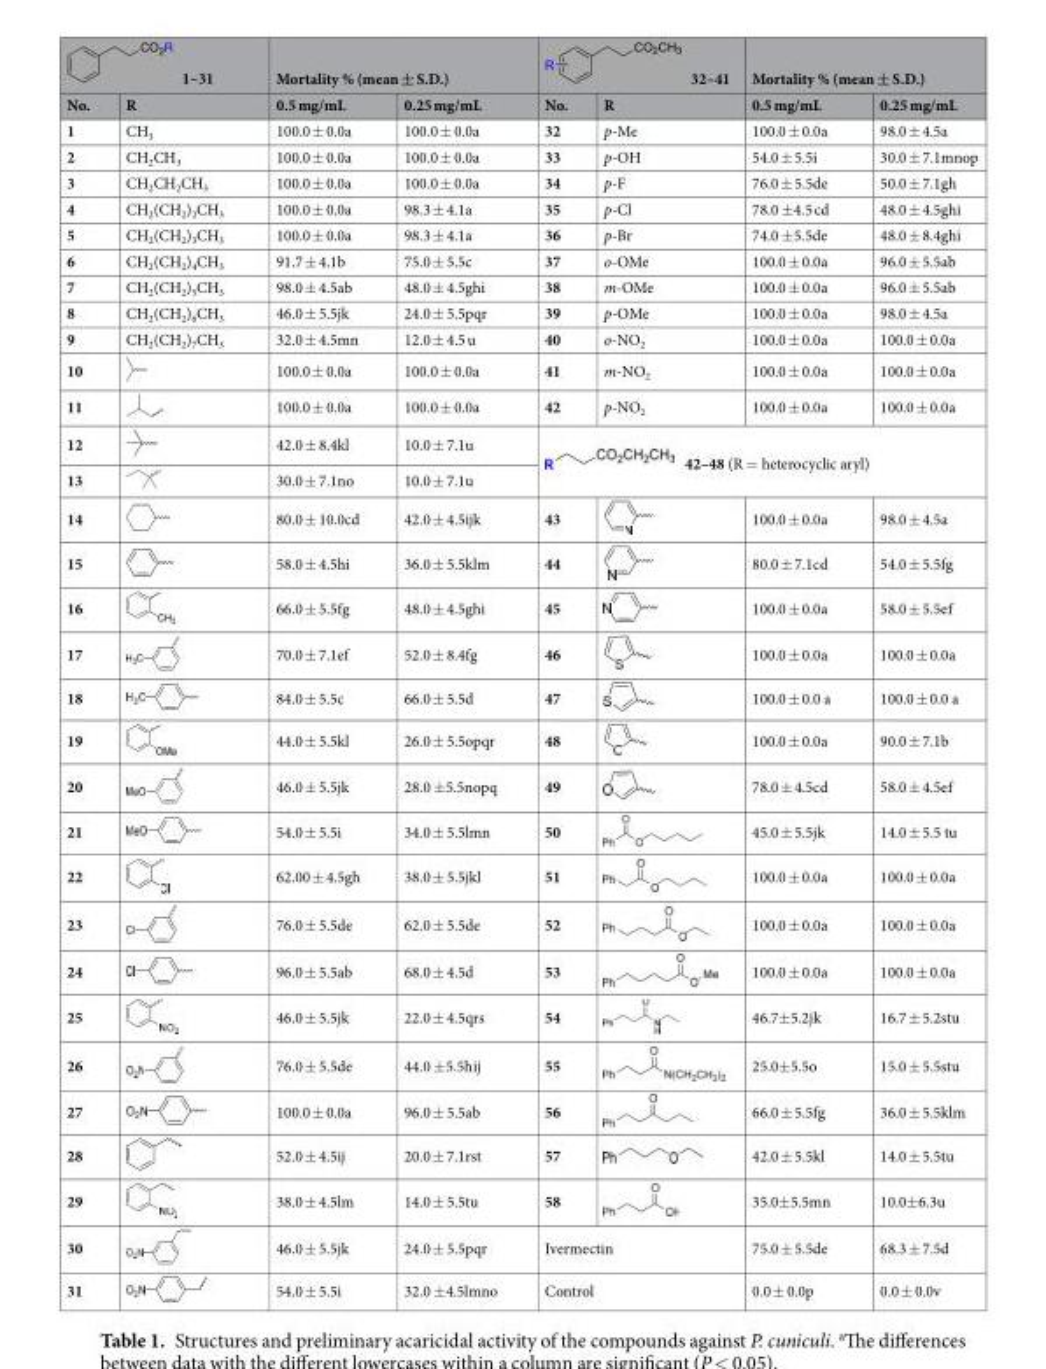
<table><thead><tr><td colspan="2">1–31</td><td colspan="2">Mortality % (mean ± S.D.)</td><td colspan="2">32–41</td><td colspan="2">Mortality % (mean ± S.D.)</td></tr><tr><td>No.</td><td>R</td><td>0.5 mg/mL</td><td>0.25 mg/mL</td><td>No.</td><td>R</td><td>0.5 mg/mL</td><td>0.25 mg/mL</td></tr></thead><tbody><tr><td>1</td><td>CH<sub>3</sub></td><td>100.0 ± 0.0a</td><td>100.0 ± 0.0a</td><td>32</td><td>p-Me</td><td>100.0 ± 0.0a</td><td>98.0 ± 4.5a</td></tr><tr><td>2</td><td>CH<sub>2</sub>CH<sub>3</sub></td><td>100.0 ± 0.0a</td><td>100.0 ± 0.0a</td><td>33</td><td>p-OH</td><td>54.0 ± 5.5i</td><td>30.0 ± 7.1mnop</td></tr><tr><td>3</td><td>CH<sub>2</sub>CH<sub>2</sub>CH<sub>3</sub></td><td>100.0 ± 0.0a</td><td>100.0 ± 0.0a</td><td>34</td><td>p-F</td><td>76.0 ± 5.5de</td><td>50.0 ± 7.1gh</td></tr><tr><td>4</td><td>CH<sub>2</sub>(CH<sub>2</sub>)<sub>2</sub>CH<sub>3</sub></td><td>100.0 ± 0.0a</td><td>98.3 ± 4.1a</td><td>35</td><td>p-Cl</td><td>78.0 ±4.5 cd</td><td>48.0 ± 4.5ghi</td></tr><tr><td>5</td><td>CH<sub>2</sub>(CH<sub>2</sub>)<sub>3</sub>CH<sub>3</sub></td><td>100.0 ± 0.0a</td><td>98.3 ± 4.1a</td><td>36</td><td>p-Br</td><td>74.0 ±5.5de</td><td>48.0 ± 8.4ghi</td></tr><tr><td>6</td><td>CH<sub>2</sub>(CH<sub>2</sub>)<sub>4</sub>CH<sub>3</sub></td><td>91.7 ± 4.1b</td><td>75.0 ± 5.5c</td><td>37</td><td>o-OMe</td><td>100.0 ± 0.0a</td><td>96.0 ± 5.5ab</td></tr><tr><td>7</td><td>CH<sub>2</sub>(CH<sub>2</sub>)<sub>5</sub>CH<sub>3</sub></td><td>98.0 ± 4.5ab</td><td>48.0 ± 4.5ghi</td><td>38</td><td>m-OMe</td><td>100.0 ± 0.0a</td><td>96.0 ± 5.5ab</td></tr><tr><td>8</td><td>CH<sub>2</sub>(CH<sub>2</sub>)<sub>6</sub>CH<sub>3</sub></td><td>46.0 ± 5.5jk</td><td>24.0 ± 5.5pqr</td><td>39</td><td>p-OMe</td><td>100.0 ± 0.0a</td><td>98.0 ± 4.5a</td></tr><tr><td>9</td><td>CH<sub>2</sub>(CH<sub>2</sub>)<sub>7</sub>CH<sub>3</sub></td><td>32.0 ± 4.5mn</td><td>12.0 ± 4.5 u</td><td>40</td><td>o-NO<sub>2</sub></td><td>100.0 ± 0.0a</td><td>100.0 ± 0.0a</td></tr><tr><td>10</td><td></td><td>100.0 ± 0.0a</td><td>100.0 ± 0.0a</td><td>41</td><td>m-NO<sub>2</sub></td><td>100.0 ± 0.0a</td><td>100.0 ± 0.0a</td></tr><tr><td>11</td><td></td><td>100.0 ± 0.0a</td><td>100.0 ± 0.0a</td><td>42</td><td>p-NO<sub>2</sub></td><td>100.0 ± 0.0a</td><td>100.0 ± 0.0a</td></tr><tr><td>12</td><td></td><td>42.0 ± 8.4kl</td><td>10.0 ± 7.1u</td><td rowspan="2" colspan="4">42–48 (R = heterocyclic aryl)</td></tr><tr><td>13</td><td></td><td>30.0 ± 7.1no</td><td>10.0 ± 7.1u</td></tr><tr><td>14</td><td></td><td>80.0 ± 10.0cd</td><td>42.0 ± 4.5ijk</td><td>43</td><td></td><td>100.0 ± 0.0a</td><td>98.0 ± 4.5a</td></tr><tr><td>15</td><td></td><td>58.0 ± 4.5hi</td><td>36.0 ± 5.5klm</td><td>44</td><td></td><td>80.0 ± 7.1cd</td><td>54.0 ± 5.5fg</td></tr><tr><td>16</td><td></td><td>66.0 ± 5.5fg</td><td>48.0 ± 4.5ghi</td><td>45</td><td></td><td>100.0 ± 0.0a</td><td>58.0 ± 5.5ef</td></tr><tr><td>17</td><td></td><td>70.0 ± 7.1ef</td><td>52.0 ± 8.4fg</td><td>46</td><td></td><td>100.0 ± 0.0a</td><td>100.0 ± 0.0a</td></tr><tr><td>18</td><td></td><td>84.0 ± 5.5c</td><td>66.0 ± 5.5d</td><td>47</td><td></td><td>100.0 ± 0.0 a</td><td>100.0 ± 0.0 a</td></tr><tr><td>19</td><td></td><td>44.0 ± 5.5kl</td><td>26.0 ± 5.5opqr</td><td>48</td><td></td><td>100.0 ± 0.0a</td><td>90.0 ± 7.1b</td></tr><tr><td>20</td><td></td><td>46.0 ± 5.5jk</td><td>28.0 ±5.5nopq</td><td>49</td><td></td><td>78.0 ± 4.5cd</td><td>58.0 ± 4.5ef</td></tr><tr><td>21</td><td></td><td>54.0 ± 5.5i</td><td>34.0 ± 5.5lmn</td><td>50</td><td></td><td>45.0 ± 5.5jk</td><td>14.0 ± 5.5 tu</td></tr><tr><td>22</td><td></td><td>62.00 ± 4.5gh</td><td>38.0 ± 5.5jkl</td><td>51</td><td></td><td>100.0 ± 0.0a</td><td>100.0 ± 0.0a</td></tr><tr><td>23</td><td></td><td>76.0 ± 5.5de</td><td>62.0 ± 5.5de</td><td>52</td><td></td><td>100.0 ± 0.0a</td><td>100.0 ± 0.0a</td></tr><tr><td>24</td><td></td><td>96.0 ± 5.5ab</td><td>68.0 ± 4.5d</td><td>53</td><td></td><td>100.0 ± 0.0a</td><td>100.0 ± 0.0a</td></tr><tr><td>25</td><td></td><td>46.0 ± 5.5jk</td><td>22.0 ± 4.5qrs</td><td>54</td><td></td><td>46.7±5.2jk</td><td>16.7 ± 5.2stu</td></tr><tr><td>26</td><td></td><td>76.0 ± 5.5de</td><td>44.0 ±5.5hij</td><td>55</td><td></td><td>25.0±5.5o</td><td>15.0 ± 5.5stu</td></tr><tr><td>27</td><td></td><td>100.0 ± 0.0a</td><td>96.0 ± 5.5ab</td><td>56</td><td></td><td>66.0 ± 5.5fg</td><td>36.0 ± 5.5klm</td></tr><tr><td>28</td><td></td><td>52.0 ± 4.5ij</td><td>20.0 ± 7.1rst</td><td>57</td><td></td><td>42.0 ± 5.5kl</td><td>14.0 ± 5.5tu</td></tr><tr><td>29</td><td></td><td>38.0 ± 4.5lm</td><td>14.0 ± 5.5tu</td><td>58</td><td></td><td>35.0±5.5mn</td><td>10.0±6.3u</td></tr><tr><td>30</td><td></td><td>46.0 ± 5.5jk</td><td>24.0 ± 5.5pqr</td><td colspan="2">Ivermectin</td><td>75.0 ± 5.5de</td><td>68.3 ± 7.5d</td></tr><tr><td>31</td><td></td><td>54.0 ± 5.5i</td><td>32.0 ±4.5lmno</td><td colspan="2">Control</td><td>0.0 ± 0.0p</td><td>0.0 ± 0.0v</td></tr></tbody></table>